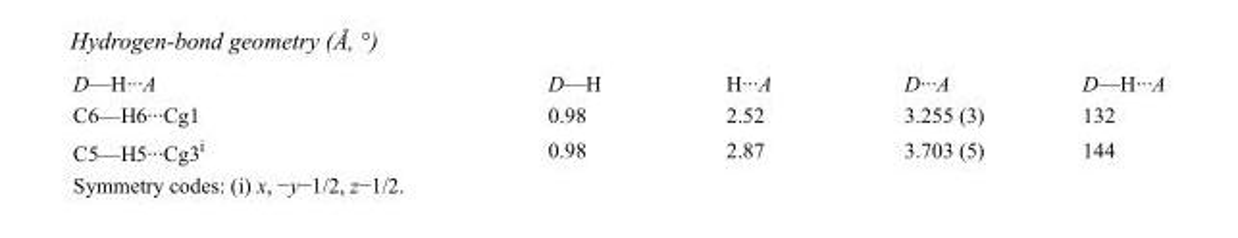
<table><tbody><tr><td>D—H···A</td><td>D—H</td><td>H···A</td><td>D···A</td><td>D—H···A</td></tr><tr><td>C6—H6···Cg1</td><td>0.98</td><td>2.52</td><td>3.255 (3)</td><td>132</td></tr><tr><td>C5—H5···Cg3<sup>i</sup></td><td>0.98</td><td>2.87</td><td>3.703 (5)</td><td>144</td></tr></tbody></table>